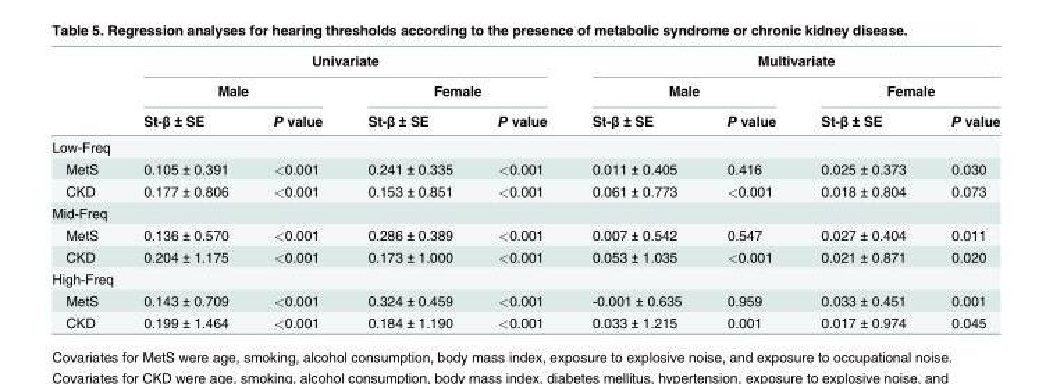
<table><thead><tr><td rowspan="3"></td><td colspan="4">Univariate</td><td colspan="4">Multivariate</td></tr><tr><td colspan="2">Male</td><td colspan="2">Female</td><td colspan="2">Male</td><td colspan="2">Female</td></tr><tr><td>St-β ± SE</td><td>P value</td><td>St-β ± SE</td><td>P value</td><td>St-β ± SE</td><td>P value</td><td>St-β ± SE</td><td>P value</td></tr></thead><tbody><tr><td colspan="9">Low-Freq</td></tr><tr><td>MetS</td><td>0.105 ± 0.391</td><td>&lt;0.001</td><td>0.241 ± 0.335</td><td>&lt;0.001</td><td>0.011 ± 0.405</td><td>0.416</td><td>0.025 ± 0.373</td><td>0.030</td></tr><tr><td>CKD</td><td>0.177 ± 0.806</td><td>&lt;0.001</td><td>0.153 ± 0.851</td><td>&lt;0.001</td><td>0.061 ± 0.773</td><td>&lt;0.001</td><td>0.018 ± 0.804</td><td>0.073</td></tr><tr><td colspan="9">Mid-Freq</td></tr><tr><td>MetS</td><td>0.136 ± 0.570</td><td>&lt;0.001</td><td>0.286 ± 0.389</td><td>&lt;0.001</td><td>0.007 ± 0.542</td><td>0.547</td><td>0.027 ± 0.404</td><td>0.011</td></tr><tr><td>CKD</td><td>0.204 ± 1.175</td><td>&lt;0.001</td><td>0.173 ± 1.000</td><td>&lt;0.001</td><td>0.053 ± 1.035</td><td>&lt;0.001</td><td>0.021 ± 0.871</td><td>0.020</td></tr><tr><td colspan="9">High-Freq</td></tr><tr><td>MetS</td><td>0.143 ± 0.709</td><td>&lt;0.001</td><td>0.324 ± 0.459</td><td>&lt;0.001</td><td>-0.001 ± 0.635</td><td>0.959</td><td>0.033 ± 0.451</td><td>0.001</td></tr><tr><td>CKD</td><td>0.199 ± 1.464</td><td>&lt;0.001</td><td>0.184 ± 1.190</td><td>&lt;0.001</td><td>0.033 ± 1.215</td><td>0.001</td><td>0.017 ± 0.974</td><td>0.045</td></tr></tbody></table>